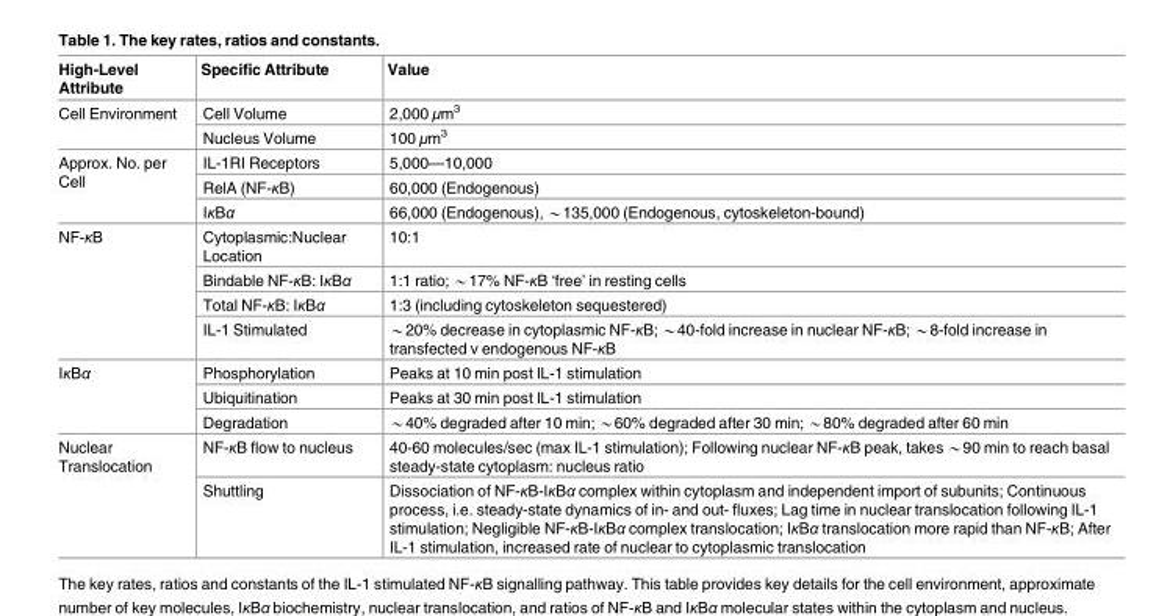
<table><thead><tr><td>High-Level Attribute</td><td>Specific Attribute</td><td>Value</td></tr></thead><tbody><tr><td rowspan="2">Cell Environment</td><td>Cell Volume</td><td>2,000 μm<sup>3</sup></td></tr><tr><td>Nucleus Volume</td><td>100 μm<sup>3</sup></td></tr><tr><td rowspan="3">Approx. No. per Cell</td><td>IL-1RI Receptors</td><td>5,000—10,000</td></tr><tr><td>RelA (NF-κB)</td><td>60,000 (Endogenous)</td></tr><tr><td>IκBα</td><td>66,000 (Endogenous), *135,000 (Endogenous, cytoskeleton-bound)</td></tr><tr><td rowspan="4">NF-κB</td><td>Cytoplasmic:Nuclear Location</td><td>10:1</td></tr><tr><td>Bindable NF-κB: IκBα</td><td>1:1 ratio; *17% NF-κB ‘free’ in resting cells</td></tr><tr><td>Total NF-κB: IκBα</td><td>1:3 (including cytoskeleton sequestered)</td></tr><tr><td>IL-1 Stimulated</td><td>*20% decrease in cytoplasmic NF-κB; *40-fold increase in nuclear NF-κB; *8-fold increase in transfected v endogenous NF-κB</td></tr><tr><td rowspan="3">IκBα</td><td>Phosphorylation</td><td>Peaks at 10 min post IL-1 stimulation</td></tr><tr><td>Ubiquitination</td><td>Peaks at 30 min post IL-1 stimulation</td></tr><tr><td>Degradation</td><td>*40% degraded after 10 min; *60% degraded after 30 min; *80% degraded after 60 min</td></tr><tr><td rowspan="2">Nuclear Translocation</td><td>NF-κB flow to nucleus</td><td>40-60 molecules/sec (max IL-1 stimulation); Following nuclear NF-κB peak, takes *90 min to reach basal steady-state cytoplasm: nucleus ratio</td></tr><tr><td>Shuttling</td><td>Dissociation of NF-κB-IκBα complex within cytoplasm and independent import of subunits; Continuous process, i.e. steady-state dynamics of in- and out- fluxes; Lag time in nuclear translocation following IL-1 stimulation; Negligible NF-κB-IκBα complex translocation; IκBα translocation more rapid than NF-κB; After IL-1 stimulation, increased rate of nuclear to cytoplasmic translocation</td></tr></tbody></table>